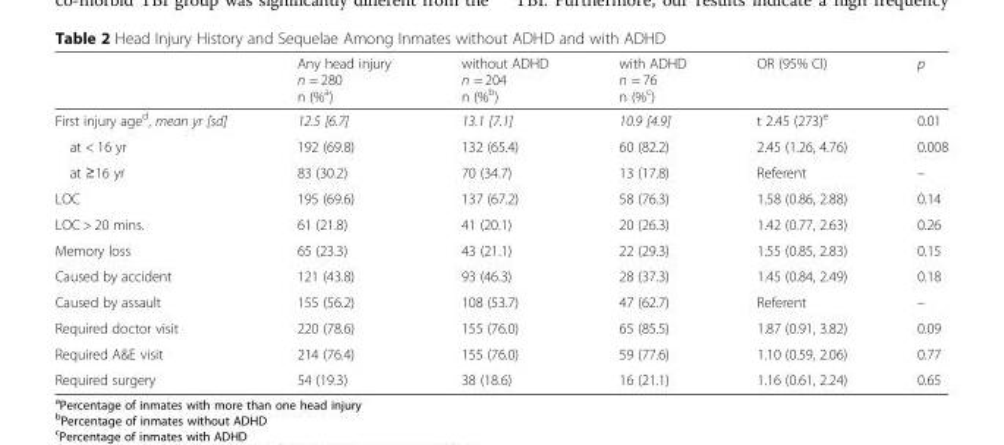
<table><thead><tr><td></td><td>Any head injury n = 280 n (%<sup>a</sup>)</td><td>without ADHD n = 204 n (%<sup>b</sup>)</td><td>with ADHD n = 76 n (%<sup>c</sup>)</td><td>OR (95% CI)</td><td>p</td></tr></thead><tbody><tr><td>First injury age<sup>d</sup>, mean yr [sd]</td><td>12.5 [6.7]</td><td>13.1 [7.1]</td><td>10.9 [4.9]</td><td>t 2.45 (273)<sup>e</sup></td><td>0.01</td></tr><tr><td>at &lt; 16 yr</td><td>192 (69.8)</td><td>132 (65.4)</td><td>60 (82.2)</td><td>2.45 (1.26, 4.76)</td><td>0.008</td></tr><tr><td>at ≥16 yr</td><td>83 (30.2)</td><td>70 (34.7)</td><td>13 (17.8)</td><td>Referent</td><td>–</td></tr><tr><td>LOC</td><td>195 (69.6)</td><td>137 (67.2)</td><td>58 (76.3)</td><td>1.58 (0.86, 2.88)</td><td>0.14</td></tr><tr><td>LOC &gt; 20 mins.</td><td>61 (21.8)</td><td>41 (20.1)</td><td>20 (26.3)</td><td>1.42 (0.77, 2.63)</td><td>0.26</td></tr><tr><td>Memory loss</td><td>65 (23.3)</td><td>43 (21.1)</td><td>22 (29.3)</td><td>1.55 (0.85, 2.83)</td><td>0.15</td></tr><tr><td>Caused by accident</td><td>121 (43.8)</td><td>93 (46.3)</td><td>28 (37.3)</td><td>1.45 (0.84, 2.49)</td><td>0.18</td></tr><tr><td>Caused by assault</td><td>155 (56.2)</td><td>108 (53.7)</td><td>47 (62.7)</td><td>Referent</td><td>–</td></tr><tr><td>Required doctor visit</td><td>220 (78.6)</td><td>155 (76.0)</td><td>65 (85.5)</td><td>1.87 (0.91, 3.82)</td><td>0.09</td></tr><tr><td>Required A&amp;E visit</td><td>214 (76.4)</td><td>155 (76.0)</td><td>59 (77.6)</td><td>1.10 (0.59, 2.06)</td><td>0.77</td></tr><tr><td>Required surgery</td><td>54 (19.3)</td><td>38 (18.6)</td><td>16 (21.1)</td><td>1.16 (0.61, 2.24)</td><td>0.65</td></tr></tbody></table>